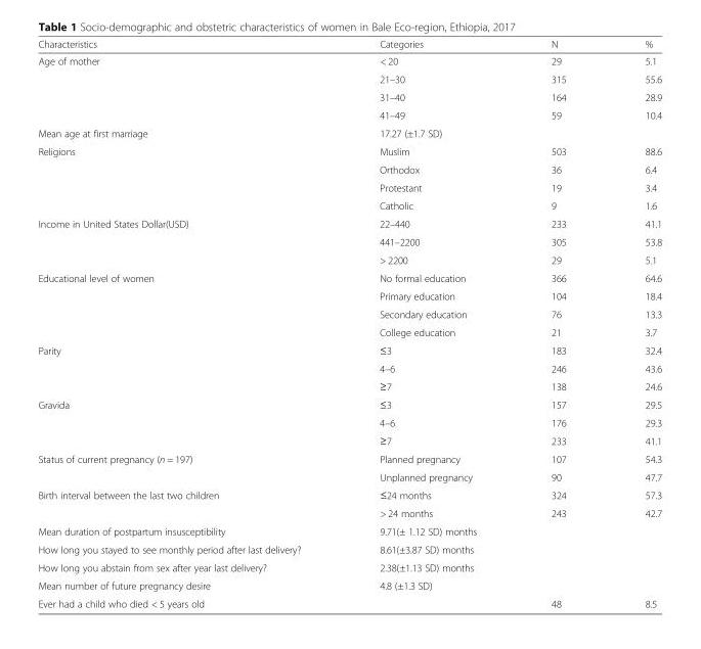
<table><thead><tr><td>Characteristics</td><td>Categories</td><td>N</td><td>%</td></tr></thead><tbody><tr><td rowspan="4">Age of mother</td><td>&lt; 20</td><td>29</td><td>5.1</td></tr><tr><td>21–30</td><td>315</td><td>55.6</td></tr><tr><td>31–40</td><td>164</td><td>28.9</td></tr><tr><td>41–49</td><td>59</td><td>10.4</td></tr><tr><td>Mean age at first marriage</td><td colspan="3">17.27 (±1.7 SD)</td></tr><tr><td rowspan="4">Religions</td><td>Muslim</td><td>503</td><td>88.6</td></tr><tr><td>Orthodox</td><td>36</td><td>6.4</td></tr><tr><td>Protestant</td><td>19</td><td>3.4</td></tr><tr><td>Catholic</td><td>9</td><td>1.6</td></tr><tr><td rowspan="3">Income in United States Dollar(USD)</td><td>22–440</td><td>233</td><td>41.1</td></tr><tr><td>441–2200</td><td>305</td><td>53.8</td></tr><tr><td>&gt; 2200</td><td>29</td><td>5.1</td></tr><tr><td rowspan="4">Educational level of women</td><td>No formal education</td><td>366</td><td>64.6</td></tr><tr><td>Primary education</td><td>104</td><td>18.4</td></tr><tr><td>Secondary education</td><td>76</td><td>13.3</td></tr><tr><td>College education</td><td>21</td><td>3.7</td></tr><tr><td rowspan="3">Parity</td><td>≤3</td><td>183</td><td>32.4</td></tr><tr><td>4–6</td><td>246</td><td>43.6</td></tr><tr><td>≥7</td><td>138</td><td>24.6</td></tr><tr><td rowspan="3">Gravida</td><td>≤3</td><td>157</td><td>29.5</td></tr><tr><td>4–6</td><td>176</td><td>29.3</td></tr><tr><td>≥7</td><td>233</td><td>41.1</td></tr><tr><td rowspan="2">Status of current pregnancy (n = 197)</td><td>Planned pregnancy</td><td>107</td><td>54.3</td></tr><tr><td>Unplanned pregnancy</td><td>90</td><td>47.7</td></tr><tr><td rowspan="2">Birth interval between the last two children</td><td>≤24 months</td><td>324</td><td>57.3</td></tr><tr><td>&gt; 24 months</td><td>243</td><td>42.7</td></tr><tr><td>Mean duration of postpartum insusceptibility</td><td colspan="3">9.71(± 1.12 SD) months</td></tr><tr><td>How long you stayed to see monthly period after last delivery?</td><td colspan="3">8.61(±3.87 SD) months</td></tr><tr><td>How long you abstain from sex after year last delivery?</td><td colspan="3">2.38(±1.13 SD) months</td></tr><tr><td>Mean number of future pregnancy desire</td><td colspan="3">4.8 (±1.3 SD)</td></tr><tr><td>Ever had a child who died &lt; 5 years old</td><td></td><td>48</td><td>8.5</td></tr></tbody></table>